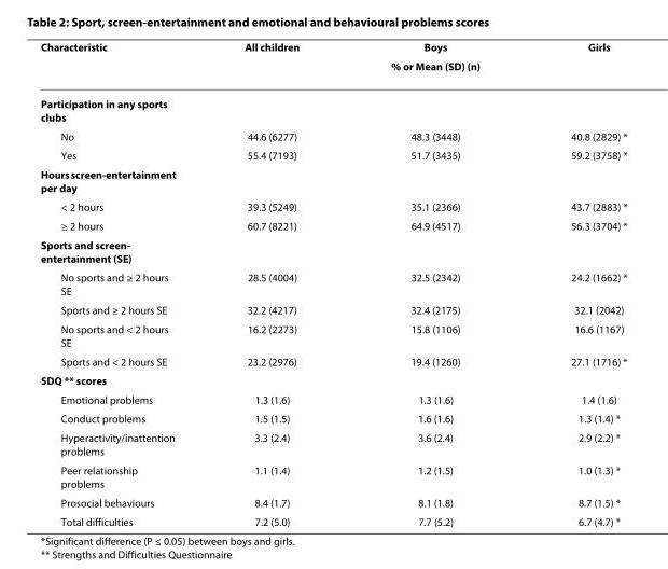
<table><thead><tr><td rowspan="2">Characteristic</td><td>All children</td><td>Boys</td><td>Girls</td></tr><tr><td colspan="3">% or Mean (SD) (n)</td></tr></thead><tbody><tr><td colspan="4">Participation in any sports clubs</td></tr><tr><td>No</td><td>44.6 (6277)</td><td>48.3 (3448)</td><td>40.8 (2829) *</td></tr><tr><td>Yes</td><td>55.4 (7193)</td><td>51.7 (3435)</td><td>59.2 (3758) *</td></tr><tr><td colspan="4">Hours screen-entertainment per day</td></tr><tr><td>&lt; 2 hours</td><td>39.3 (5249)</td><td>35.1 (2366)</td><td>43.7 (2883) *</td></tr><tr><td>≥ 2 hours</td><td>60.7 (8221)</td><td>64.9 (4517)</td><td>56.3 (3704) *</td></tr><tr><td colspan="4">Sports and screen- entertainment (SE)</td></tr><tr><td>No sports and ≥ 2 hours SE</td><td>28.5 (4004)</td><td>32.5 (2342)</td><td>24.2 (1662) *</td></tr><tr><td>Sports and ≥ 2 hours SE</td><td>32.2 (4217)</td><td>32.4 (2175)</td><td>32.1 (2042)</td></tr><tr><td>No sports and &lt; 2 hours SE</td><td>16.2 (2273)</td><td>15.8 (1106)</td><td>16.6 (1167)</td></tr><tr><td>Sports and &lt; 2 hours SE</td><td>23.2 (2976)</td><td>19.4 (1260)</td><td>27.1 (1716) *</td></tr><tr><td colspan="4">SDQ ** scores</td></tr><tr><td>Emotional problems</td><td>1.3 (1.6)</td><td>1.3 (1.6)</td><td>1.4 (1.6)</td></tr><tr><td>Conduct problems</td><td>1.5 (1.5)</td><td>1.6 (1.6)</td><td>1.3 (1.4) *</td></tr><tr><td>Hyperactivity/inattention problems</td><td>3.3 (2.4)</td><td>3.6 (2.4)</td><td>2.9 (2.2) *</td></tr><tr><td>Peer relationship problems</td><td>1.1 (1.4)</td><td>1.2 (1.5)</td><td>1.0 (1.3) *</td></tr><tr><td>Prosocial behaviours</td><td>8.4 (1.7)</td><td>8.1 (1.8)</td><td>8.7 (1.5) *</td></tr><tr><td>Total difficulties</td><td>7.2 (5.0)</td><td>7.7 (5.2)</td><td>6.7 (4.7) *</td></tr></tbody></table>